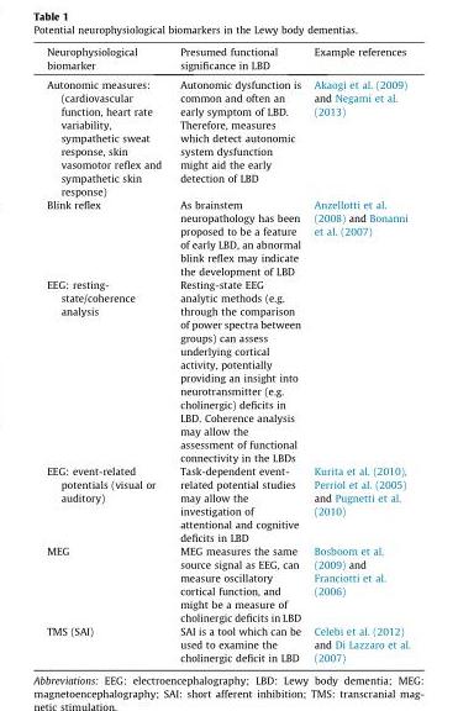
<table><thead><tr><td>Neurophysiological biomarker</td><td>Presumed functional significance in LBD</td><td>Example references</td></tr></thead><tbody><tr><td>Autonomic measures: (cardiovascular function, heart rate variability, sympathetic sweat response, skin vasomotor reflex and sympathetic skin response)</td><td>Autonomic dysfunction is common and often an early symptom of LBD. Therefore, measures which detect autonomic system dysfunction might aid the early detection of LBD</td><td>Akaogi et al. (2009) and Negami et al. (2013)</td></tr><tr><td>Blink reflex</td><td>As brainstem neuropathology has been proposed to be a feature of early LBD, an abnormal blink reflex may indicate the development of LBD</td><td>Anzellotti et al. (2008) and Bonanni et al. (2007)</td></tr><tr><td>EEG: resting- state/coherence analysis</td><td>Resting-state EEG analytic methods (e.g. through the comparison of power spectra between groups) can assess underlying cortical activity, potentially providing an insight into neurotransmitter (e.g. cholinergic) deficits in LBD. Coherence analysis may allow the assessment of functional connectivity in the LBDs</td><td></td></tr><tr><td>EEG: event-related potentials (visual or auditory)</td><td>Task-dependent event- related potential studies may allow the investigation of attentional and cognitive deficits in LBD</td><td>Kurita et al. (2010), Perriol et al. (2005) and Pugnetti et al. (2010)</td></tr><tr><td>MEG</td><td>MEG measures the same source signal as EEG, can measure oscillatory cortical function, and might be a measure of cholinergic deficits in LBD</td><td>Bosboom et al. (2009) and Franciotti et al. (2006)</td></tr><tr><td>TMS (SAI)</td><td>SAI is a tool which can be used to examine the cholinergic deficit in LBD</td><td>Celebi et al. (2012) and Di Lazzaro et al. (2007)</td></tr></tbody></table>